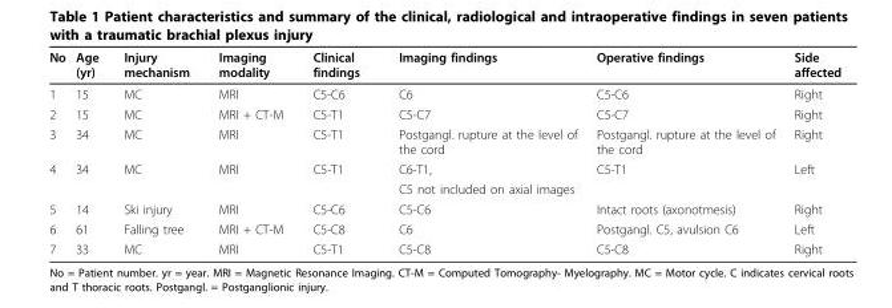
<table><thead><tr><td>No</td><td>Age (yr)</td><td>Injury mechanism</td><td>Imaging modality</td><td>Clinical findings</td><td>Imaging findings</td><td>Operative findings</td><td>Side affected</td></tr></thead><tbody><tr><td>1</td><td>15</td><td>MC</td><td>MRI</td><td>C5-C6</td><td>C6</td><td>C5-C6</td><td>Right</td></tr><tr><td>2</td><td>15</td><td>MC</td><td>MRI + CT-M</td><td>C5-T1</td><td>C5-C7</td><td>C5-C7</td><td>Right</td></tr><tr><td>3</td><td>34</td><td>MC</td><td>MRI</td><td>C5-T1</td><td>Postgangl. rupture at the level of the cord</td><td>Postgangl. rupture at the level of the cord</td><td>Right</td></tr><tr><td rowspan="2">4</td><td>34</td><td>MC</td><td>MRI</td><td>C5-T1</td><td>C6-T1,</td><td>C5-T1</td><td>Left</td></tr><tr><td></td><td></td><td></td><td></td><td>C5 not included on axial images</td><td></td><td></td></tr><tr><td>5</td><td>14</td><td>Ski injury</td><td>MRI</td><td>C5-C6</td><td>C5-C6</td><td>Intact roots (axonotmesis)</td><td>Right</td></tr><tr><td>6</td><td>61</td><td>Falling tree</td><td>MRI + CT-M</td><td>C5-C8</td><td>C6</td><td>Postgangl. C5, avulsion C6</td><td>Left</td></tr><tr><td>7</td><td>33</td><td>MC</td><td>MRI</td><td>C5-T1</td><td>C5-C8</td><td>C5-C8</td><td>Right</td></tr></tbody></table>